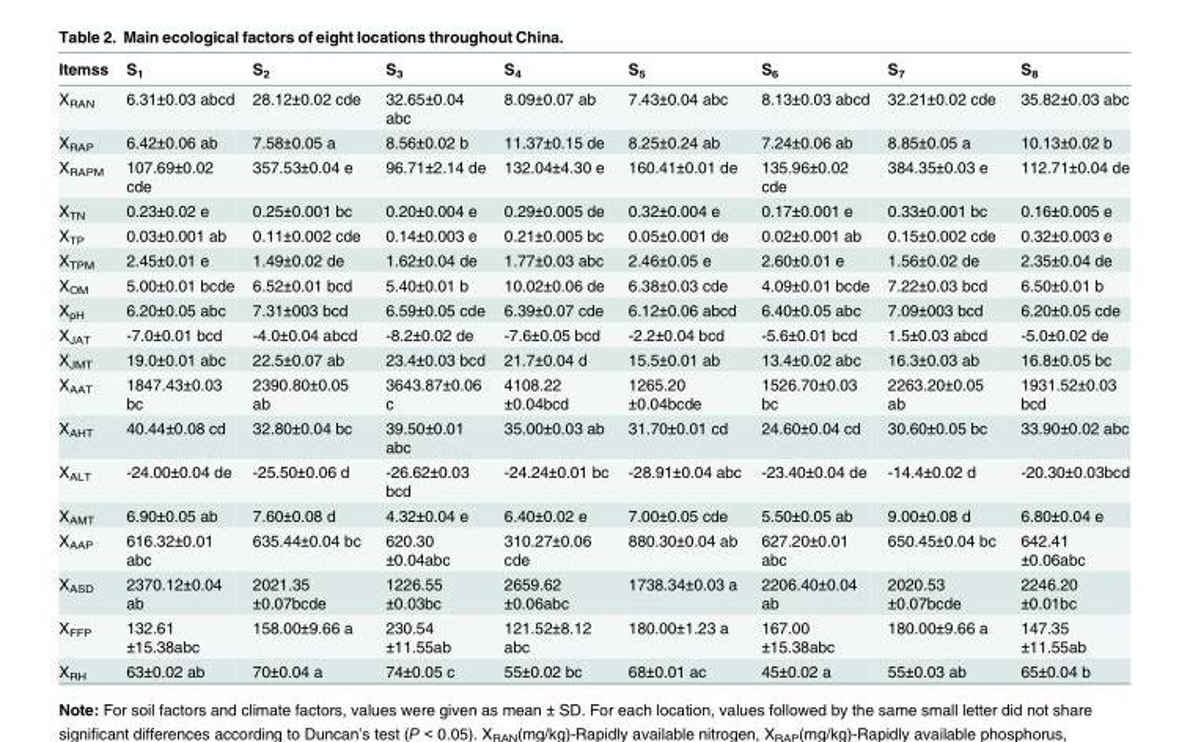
<table><thead><tr><td>Itemss</td><td>S<sub>1</sub></td><td>S<sub>2</sub></td><td>S<sub>3</sub></td><td>S<sub>4</sub></td><td>S<sub>5</sub></td><td>S<sub>6</sub></td><td>S<sub>7</sub></td><td>S<sub>8</sub></td></tr></thead><tbody><tr><td>X<sub>RAN</sub></td><td>6.31±0.03 abcd</td><td>28.12±0.02 cde</td><td>32.65±0.04 abc</td><td>8.09±0.07 ab</td><td>7.43±0.04 abc</td><td>8.13±0.03 abcd</td><td>32.21±0.02 cde</td><td>35.82±0.03 abc</td></tr><tr><td>X<sub>RAP</sub></td><td>6.42±0.06 ab</td><td>7.58±0.05 a</td><td>8.56±0.02 b</td><td>11.37±0.15 de</td><td>8.25±0.24 ab</td><td>7.24±0.06 ab</td><td>8.85±0.05 a</td><td>10.13±0.02 b</td></tr><tr><td>X<sub>RAPM</sub></td><td>107.69±0.02 cde</td><td>357.53±0.04 e</td><td>96.71±2.14 de</td><td>132.04±4.30 e</td><td>160.41±0.01 de</td><td>135.96±0.02 cde</td><td>384.35±0.03 e</td><td>112.71±0.04 de</td></tr><tr><td>X<sub>TN</sub></td><td>0.23±0.02 e</td><td>0.25±0.001 bc</td><td>0.20±0.004 e</td><td>0.29±0.005 de</td><td>0.32±0.004 e</td><td>0.17±0.001 e</td><td>0.33±0.001 bc</td><td>0.16±0.005 e</td></tr><tr><td>X<sub>TP</sub></td><td>0.03±0.001 ab</td><td>0.11±0.002 cde</td><td>0.14±0.003 e</td><td>0.21±0.005 bc</td><td>0.05±0.001 de</td><td>0.02±0.001 ab</td><td>0.15±0.002 cde</td><td>0.32±0.003 e</td></tr><tr><td>X<sub>TPM</sub></td><td>2.45±0.01 e</td><td>1.49±0.02 de</td><td>1.62±0.04 de</td><td>1.77±0.03 abc</td><td>2.46±0.05 e</td><td>2.60±0.01 e</td><td>1.56±0.02 de</td><td>2.35±0.04 de</td></tr><tr><td>X<sub>OM</sub></td><td>5.00±0.01 bcde</td><td>6.52±0.01 bcd</td><td>5.40±0.01 b</td><td>10.02±0.06 de</td><td>6.38±0.03 cde</td><td>4.09±0.01 bcde</td><td>7.22±0.03 bcd</td><td>6.50±0.01 b</td></tr><tr><td>X<sub>pH</sub></td><td>6.20±0.05 abc</td><td>7.31±003 bcd</td><td>6.59±0.05 cde</td><td>6.39±0.07 cde</td><td>6.12±0.06 abcd</td><td>6.40±0.05 abc</td><td>7.09±003 bcd</td><td>6.20±0.05 cde</td></tr><tr><td>X<sub>JAT</sub></td><td>-7.0±0.01 bcd</td><td>-4.0±0.04 abcd</td><td>-8.2±0.02 de</td><td>-7.6±0.05 bcd</td><td>-2.2±0.04 bcd</td><td>-5.6±0.01 bcd</td><td>1.5±0.03 abcd</td><td>-5.0±0.02 de</td></tr><tr><td>X<sub>JMT</sub></td><td>19.0±0.01 abc</td><td>22.5±0.07 ab</td><td>23.4±0.03 bcd</td><td>21.7±0.04 d</td><td>15.5±0.01 ab</td><td>13.4±0.02 abc</td><td>16.3±0.03 ab</td><td>16.8±0.05 bc</td></tr><tr><td>X<sub>AAT</sub></td><td>1847.43±0.03 bc</td><td>2390.80±0.05 ab</td><td>3643.87±0.06 c</td><td>4108.22 ±0.04bcd</td><td>1265.20 ±0.04bcde</td><td>1526.70±0.03 bc</td><td>2263.20±0.05 ab</td><td>1931.52±0.03 bcd</td></tr><tr><td>X<sub>AHT</sub></td><td>40.44±0.08 cd</td><td>32.80±0.04 bc</td><td>39.50±0.01 abc</td><td>35.00±0.03 ab</td><td>31.70±0.01 cd</td><td>24.60±0.04 cd</td><td>30.60±0.05 bc</td><td>33.90±0.02 abc</td></tr><tr><td>X<sub>ALT</sub></td><td>-24.00±0.04 de</td><td>-25.50±0.06 d</td><td>-26.62±0.03 bcd</td><td>-24.24±0.01 bc</td><td>-28.91±0.04 abc</td><td>-23.40±0.04 de</td><td>-14.4±0.02 d</td><td>-20.30±0.03bcd</td></tr><tr><td>X<sub>AMT</sub></td><td>6.90±0.05 ab</td><td>7.60±0.08 d</td><td>4.32±0.04 e</td><td>6.40±0.02 e</td><td>7.00±0.05 cde</td><td>5.50±0.05 ab</td><td>9.00±0.08 d</td><td>6.80±0.04 e</td></tr><tr><td>X<sub>AAP</sub></td><td>616.32±0.01 abc</td><td>635.44±0.04 bc</td><td>620.30 ±0.04abc</td><td>310.27±0.06 cde</td><td>880.30±0.04 ab</td><td>627.20±0.01 abc</td><td>650.45±0.04 bc</td><td>642.41 ±0.06abc</td></tr><tr><td>X<sub>ASD</sub></td><td>2370.12±0.04 ab</td><td>2021.35 ±0.07bcde</td><td>1226.55 ±0.03bc</td><td>2659.62 ±0.06abc</td><td>1738.34±0.03 a</td><td>2206.40±0.04 ab</td><td>2020.53 ±0.07bcde</td><td>2246.20 ±0.01bc</td></tr><tr><td>X<sub>FFP</sub></td><td>132.61 ±15.38abc</td><td>158.00±9.66 a</td><td>230.54 ±11.55ab</td><td>121.52±8.12 abc</td><td>180.00±1.23 a</td><td>167.00 ±15.38abc</td><td>180.00±9.66 a</td><td>147.35 ±11.55ab</td></tr><tr><td>X<sub>RH</sub></td><td>63±0.02 ab</td><td>70±0.04 a</td><td>74±0.05 c</td><td>55±0.02 bc</td><td>68±0.01 ac</td><td>45±0.02 a</td><td>55±0.03 ab</td><td>65±0.04 b</td></tr></tbody></table>